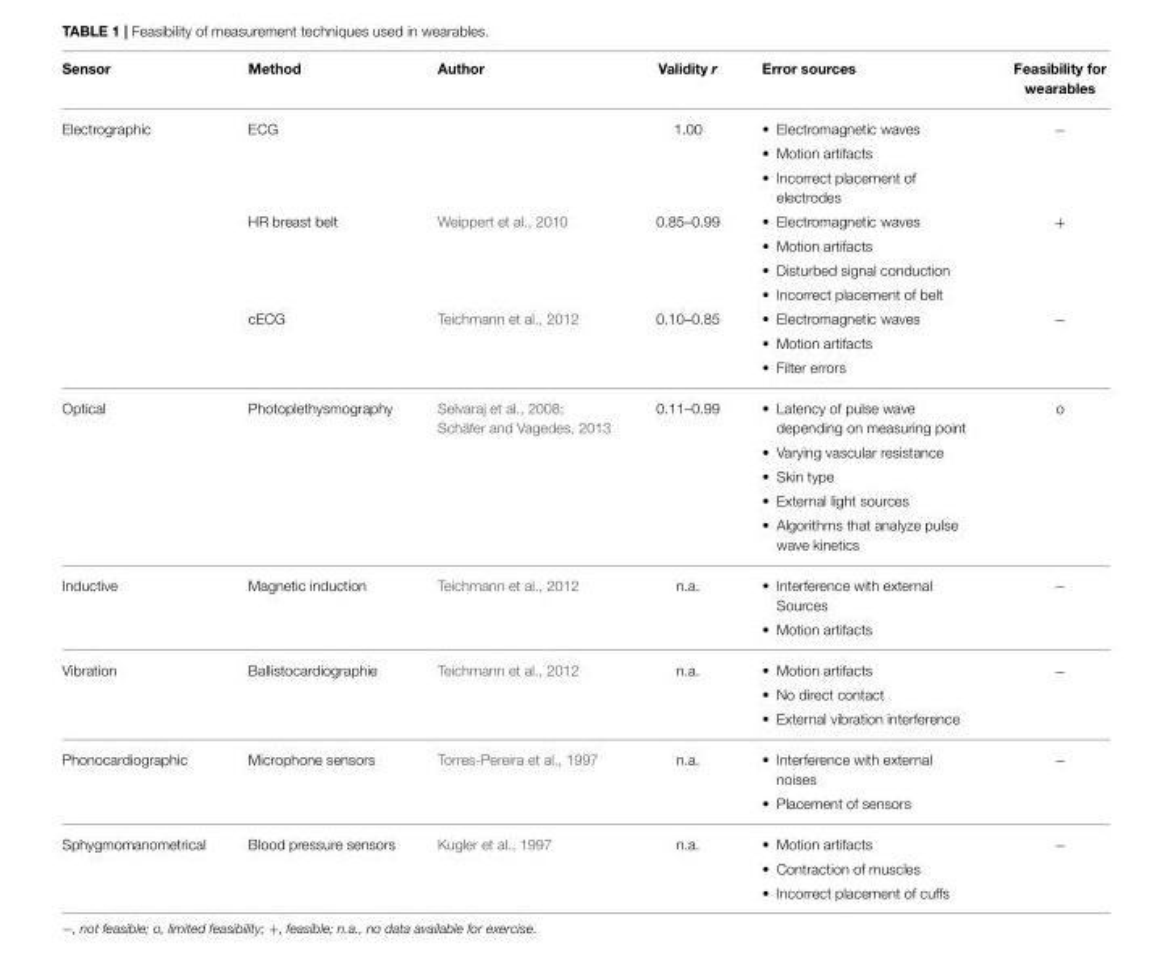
<table><thead><tr><td>Sensor</td><td>Method</td><td>Author</td><td>Validity r</td><td>Error sources</td><td>Feasibility for wearables</td></tr></thead><tbody><tr><td rowspan="10">Electrographic</td><td>ECG</td><td></td><td>1.00</td><td>• Electromagnetic waves</td><td>−</td></tr><tr><td></td><td></td><td></td><td>• Motion artifacts</td><td></td></tr><tr><td></td><td></td><td></td><td>• Incorrect placement of electrodes</td><td></td></tr><tr><td>HR breast belt</td><td>Weippert et al., 2010</td><td>0.85–0.99</td><td>• Electromagnetic waves</td><td>+</td></tr><tr><td></td><td></td><td></td><td>• Motion artifacts</td><td></td></tr><tr><td></td><td></td><td></td><td>• Disturbed signal conduction</td><td></td></tr><tr><td></td><td></td><td></td><td>• Incorrect placement of belt</td><td></td></tr><tr><td>cECG</td><td>Teichmann et al., 2012</td><td>0.10–0.85</td><td>• Electromagnetic waves</td><td>−</td></tr><tr><td></td><td></td><td></td><td>• Motion artifacts</td><td></td></tr><tr><td></td><td></td><td></td><td>• Filter errors</td><td></td></tr><tr><td rowspan="5">Optical</td><td>Photoplethysmography</td><td>Selvaraj et al., 2008; Schäfer and Vagedes, 2013</td><td>0.11–0.99</td><td>• Latency of pulse wave depending on measuring point</td><td>o</td></tr><tr><td></td><td></td><td></td><td>• Varying vascular resistance</td><td></td></tr><tr><td></td><td></td><td></td><td>• Skin type</td><td></td></tr><tr><td></td><td></td><td></td><td>• External light sources</td><td></td></tr><tr><td></td><td></td><td></td><td>• Algorithms that analyze pulse wave kinetics</td><td></td></tr><tr><td rowspan="2">Inductive</td><td>Magnetic induction</td><td>Teichmann et al., 2012</td><td>n.a.</td><td>• Interference with external Sources</td><td>−</td></tr><tr><td></td><td></td><td></td><td>• Motion artifacts</td><td></td></tr><tr><td rowspan="3">Vibration</td><td>Ballistocardiographie</td><td>Teichmann et al., 2012</td><td>n.a.</td><td>• Motion artifacts</td><td>−</td></tr><tr><td></td><td></td><td></td><td>• No direct contact</td><td></td></tr><tr><td></td><td></td><td></td><td>• External vibration interference</td><td></td></tr><tr><td rowspan="2">Phonocardiographic</td><td>Microphone sensors</td><td>Torres-Pereira et al., 1997</td><td>n.a.</td><td>• Interference with external noises</td><td>−</td></tr><tr><td></td><td></td><td></td><td>• Placement of sensors</td><td></td></tr><tr><td rowspan="3">Sphygmomanometrical</td><td>Blood pressure sensors</td><td>Kugler et al., 1997</td><td>n.a.</td><td>• Motion artifacts</td><td>−</td></tr><tr><td></td><td></td><td></td><td>• Contraction of muscles</td><td></td></tr><tr><td></td><td></td><td></td><td>• Incorrect placement of cuffs</td><td></td></tr></tbody></table>